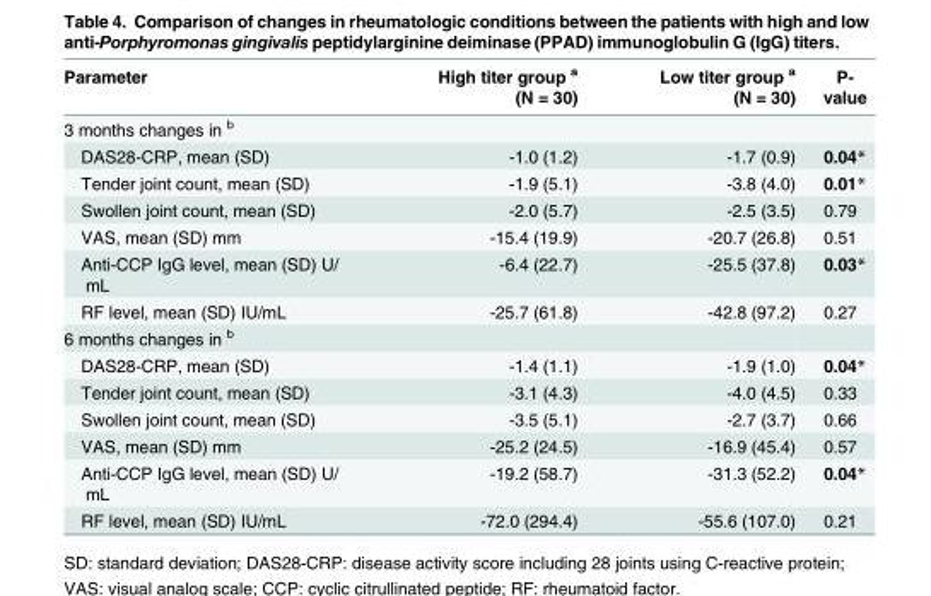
<table><thead><tr><td>Parameter</td><td>High titer group <sup>a</sup> (N = 30)</td><td>Low titer group <sup>a</sup> (N = 30)</td><td>P- value</td></tr></thead><tbody><tr><td colspan="4">3 months changes in <sup>b</sup></td></tr><tr><td>DAS28-CRP, mean (SD)</td><td>-1.0 (1.2)</td><td>-1.7 (0.9)</td><td>0.04*</td></tr><tr><td>Tender joint count, mean (SD)</td><td>-1.9 (5.1)</td><td>-3.8 (4.0)</td><td>0.01*</td></tr><tr><td>Swollen joint count, mean (SD)</td><td>-2.0 (5.7)</td><td>-2.5 (3.5)</td><td>0.79</td></tr><tr><td>VAS, mean (SD) mm</td><td>-15.4 (19.9)</td><td>-20.7 (26.8)</td><td>0.51</td></tr><tr><td>Anti-CCP IgG level, mean (SD) U/ mL</td><td>-6.4 (22.7)</td><td>-25.5 (37.8)</td><td>0.03*</td></tr><tr><td>RF level, mean (SD) IU/mL</td><td>-25.7 (61.8)</td><td>-42.8 (97.2)</td><td>0.27</td></tr><tr><td colspan="4">6 months changes in <sup>b</sup></td></tr><tr><td>DAS28-CRP, mean (SD)</td><td>-1.4 (1.1)</td><td>-1.9 (1.0)</td><td>0.04*</td></tr><tr><td>Tender joint count, mean (SD)</td><td>-3.1 (4.3)</td><td>-4.0 (4.5)</td><td>0.33</td></tr><tr><td>Swollen joint count, mean (SD)</td><td>-3.5 (5.1)</td><td>-2.7 (3.7)</td><td>0.66</td></tr><tr><td>VAS, mean (SD) mm</td><td>-25.2 (24.5)</td><td>-16.9 (45.4)</td><td>0.57</td></tr><tr><td>Anti-CCP IgG level, mean (SD) U/ mL</td><td>-19.2 (58.7)</td><td>-31.3 (52.2)</td><td>0.04*</td></tr><tr><td>RF level, mean (SD) IU/mL</td><td>-72.0 (294.4)</td><td>-55.6 (107.0)</td><td>0.21</td></tr></tbody></table>